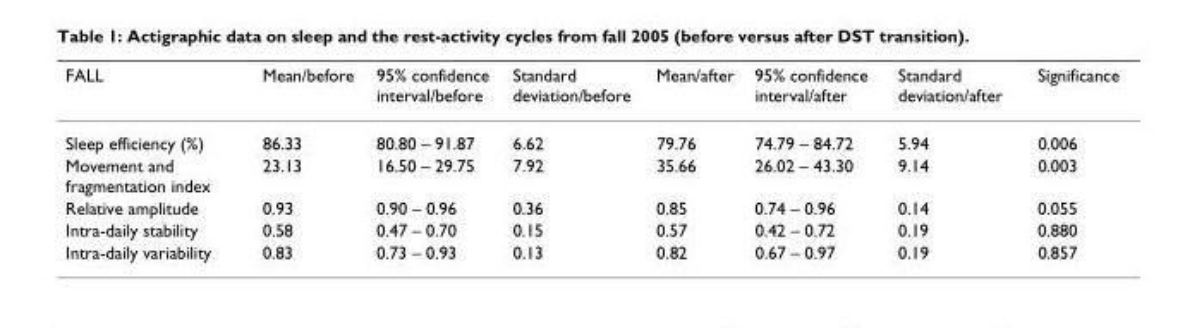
<table><thead><tr><td>FALL</td><td>Mean/before</td><td>95% confidence interval/before</td><td>Standard deviation/before</td><td>Mean/after</td><td>95% confidence interval/after</td><td>Standard deviation/after</td><td>Significance</td></tr></thead><tbody><tr><td>Sleep efficiency (%)</td><td>86.33</td><td>80.80 – 91.87</td><td>6.62</td><td>79.76</td><td>74.79 – 84.72</td><td>5.94</td><td>0.006</td></tr><tr><td>Movement and fragmentation index</td><td>23.13</td><td>16.50 – 29.75</td><td>7.92</td><td>35.66</td><td>26.02 – 43.30</td><td>9.14</td><td>0.003</td></tr><tr><td>Relative amplitude</td><td>0.93</td><td>0.90 – 0.96</td><td>0.36</td><td>0.85</td><td>0.74 – 0.96</td><td>0.14</td><td>0.055</td></tr><tr><td>Intra-daily stability</td><td>0.58</td><td>0.47 – 0.70</td><td>0.15</td><td>0.57</td><td>0.42 – 0.72</td><td>0.19</td><td>0.880</td></tr><tr><td>Intra-daily variability</td><td>0.83</td><td>0.73 – 0.93</td><td>0.13</td><td>0.82</td><td>0.67 – 0.97</td><td>0.19</td><td>0.857</td></tr></tbody></table>